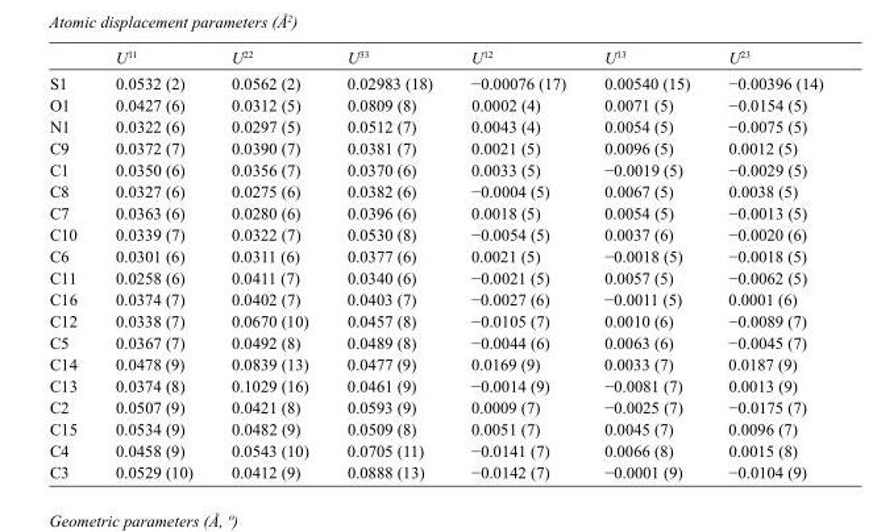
<table><thead><tr><td></td><td>U<sup>11</sup></td><td>U<sup>22</sup></td><td>U<sup>33</sup></td><td>U<sup>12</sup></td><td>U<sup>13</sup></td><td>U<sup>23</sup></td></tr></thead><tbody><tr><td>S1</td><td>0.0532 (2)</td><td>0.0562 (2)</td><td>0.02983 (18)</td><td>−0.00076 (17)</td><td>0.00540 (15)</td><td>−0.00396 (14)</td></tr><tr><td>O1</td><td>0.0427 (6)</td><td>0.0312 (5)</td><td>0.0809 (8)</td><td>0.0002 (4)</td><td>0.0071 (5)</td><td>−0.0154 (5)</td></tr><tr><td>N1</td><td>0.0322 (6)</td><td>0.0297 (5)</td><td>0.0512 (7)</td><td>0.0043 (4)</td><td>0.0054 (5)</td><td>−0.0075 (5)</td></tr><tr><td>C9</td><td>0.0372 (7)</td><td>0.0390 (7)</td><td>0.0381 (7)</td><td>0.0021 (5)</td><td>0.0096 (5)</td><td>0.0012 (5)</td></tr><tr><td>C1</td><td>0.0350 (6)</td><td>0.0356 (7)</td><td>0.0370 (6)</td><td>0.0033 (5)</td><td>−0.0019 (5)</td><td>−0.0029 (5)</td></tr><tr><td>C8</td><td>0.0327 (6)</td><td>0.0275 (6)</td><td>0.0382 (6)</td><td>−0.0004 (5)</td><td>0.0067 (5)</td><td>0.0038 (5)</td></tr><tr><td>C7</td><td>0.0363 (6)</td><td>0.0280 (6)</td><td>0.0396 (6)</td><td>0.0018 (5)</td><td>0.0054 (5)</td><td>−0.0013 (5)</td></tr><tr><td>C10</td><td>0.0339 (7)</td><td>0.0322 (7)</td><td>0.0530 (8)</td><td>−0.0054 (5)</td><td>0.0037 (6)</td><td>−0.0020 (6)</td></tr><tr><td>C6</td><td>0.0301 (6)</td><td>0.0311 (6)</td><td>0.0377 (6)</td><td>0.0021 (5)</td><td>−0.0018 (5)</td><td>−0.0018 (5)</td></tr><tr><td>C11</td><td>0.0258 (6)</td><td>0.0411 (7)</td><td>0.0340 (6)</td><td>−0.0021 (5)</td><td>0.0057 (5)</td><td>−0.0062 (5)</td></tr><tr><td>C16</td><td>0.0374 (7)</td><td>0.0402 (7)</td><td>0.0403 (7)</td><td>−0.0027 (6)</td><td>−0.0011 (5)</td><td>0.0001 (6)</td></tr><tr><td>C12</td><td>0.0338 (7)</td><td>0.0670 (10)</td><td>0.0457 (8)</td><td>−0.0105 (7)</td><td>0.0010 (6)</td><td>−0.0089 (7)</td></tr><tr><td>C5</td><td>0.0367 (7)</td><td>0.0492 (8)</td><td>0.0489 (8)</td><td>−0.0044 (6)</td><td>0.0063 (6)</td><td>−0.0045 (7)</td></tr><tr><td>C14</td><td>0.0478 (9)</td><td>0.0839 (13)</td><td>0.0477 (9)</td><td>0.0169 (9)</td><td>0.0033 (7)</td><td>0.0187 (9)</td></tr><tr><td>C13</td><td>0.0374 (8)</td><td>0.1029 (16)</td><td>0.0461 (9)</td><td>−0.0014 (9)</td><td>−0.0081 (7)</td><td>0.0013 (9)</td></tr><tr><td>C2</td><td>0.0507 (9)</td><td>0.0421 (8)</td><td>0.0593 (9)</td><td>0.0009 (7)</td><td>−0.0025 (7)</td><td>−0.0175 (7)</td></tr><tr><td>C15</td><td>0.0534 (9)</td><td>0.0482 (9)</td><td>0.0509 (8)</td><td>0.0051 (7)</td><td>0.0045 (7)</td><td>0.0096 (7)</td></tr><tr><td>C4</td><td>0.0458 (9)</td><td>0.0543 (10)</td><td>0.0705 (11)</td><td>−0.0141 (7)</td><td>0.0066 (8)</td><td>0.0015 (8)</td></tr><tr><td>C3</td><td>0.0529 (10)</td><td>0.0412 (9)</td><td>0.0888 (13)</td><td>−0.0142 (7)</td><td>−0.0001 (9)</td><td>−0.0104 (9)</td></tr></tbody></table>